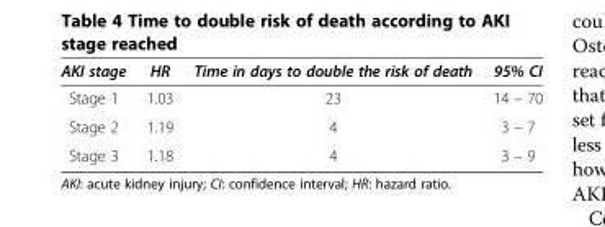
<table><thead><tr><td>AKI stage</td><td>HR</td><td>Time in days to double the risk of death</td><td>95% CI</td></tr></thead><tbody><tr><td>Stage 1</td><td>1.03</td><td>23</td><td>14 – 70</td></tr><tr><td>Stage 2</td><td>1.19</td><td>4</td><td>3 – 7</td></tr><tr><td>Stage 3</td><td>1.18</td><td>4</td><td>3 – 9</td></tr></tbody></table>